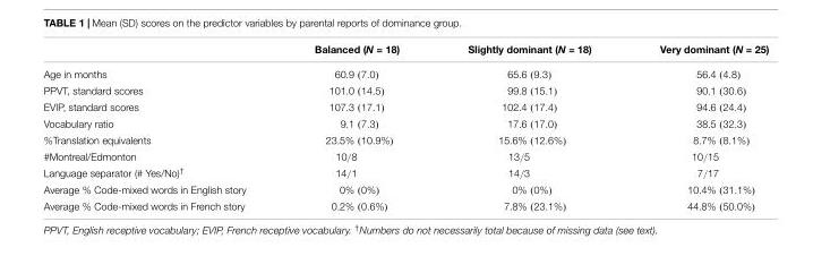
<table><thead><tr><td></td><td>Balanced (N = 18)</td><td>Slightly dominant (N = 18)</td><td>Very dominant (N = 25)</td></tr></thead><tbody><tr><td>Age in months</td><td>60.9 (7.0)</td><td>65.6 (9.3)</td><td>56.4 (4.8)</td></tr><tr><td>PPVT, standard scores</td><td>101.0 (14.5)</td><td>99.8 (15.1)</td><td>90.1 (30.6)</td></tr><tr><td>EVIP, standard scores</td><td>107.3 (17.1)</td><td>102.4 (17.4)</td><td>94.6 (24.4)</td></tr><tr><td>Vocabulary ratio</td><td>9.1 (7.3)</td><td>17.6 (17.0)</td><td>38.5 (32.3)</td></tr><tr><td>%Translation equivalents</td><td>23.5% (10.9%)</td><td>15.6% (12.6%)</td><td>8.7% (8.1%)</td></tr><tr><td>#Montreal/Edmonton</td><td>10/8</td><td>13/5</td><td>10/15</td></tr><tr><td>Language separator (# Yes/No)<sup>†</sup></td><td>14/1</td><td>14/3</td><td>7/17</td></tr><tr><td>Average % Code-mixed words in English story</td><td>0% (0%)</td><td>0% (0%)</td><td>10.4% (31.1%)</td></tr><tr><td>Average % Code-mixed words in French story</td><td>0.2% (0.6%)</td><td>7.8% (23.1%)</td><td>44.8% (50.0%)</td></tr></tbody></table>